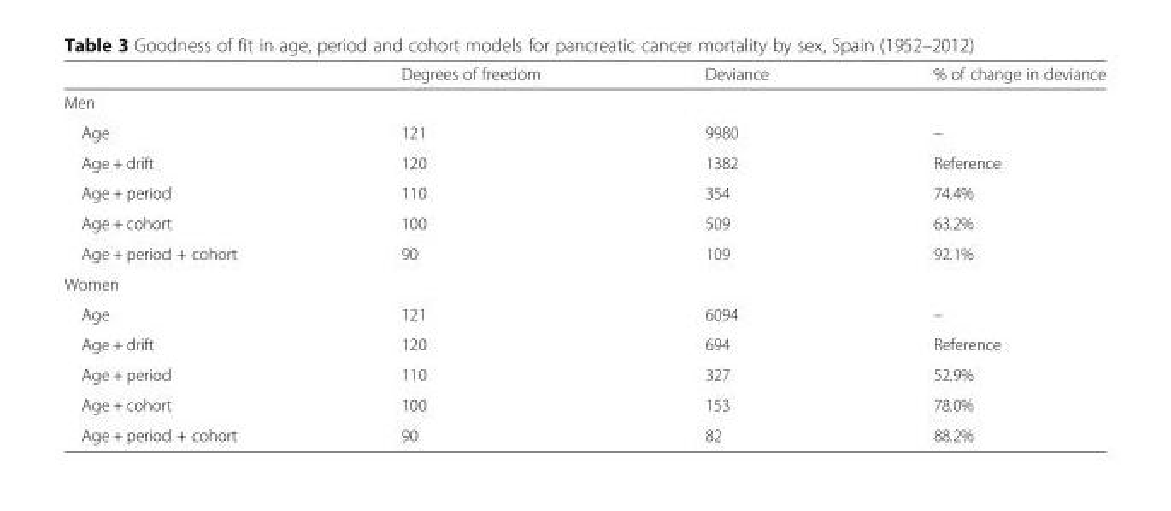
<table><thead><tr><td></td><td>Degrees of freedom</td><td>Deviance</td><td>% of change in deviance</td></tr></thead><tbody><tr><td colspan="4">Men</td></tr><tr><td>Age</td><td>121</td><td>9980</td><td>–</td></tr><tr><td>Age + drift</td><td>120</td><td>1382</td><td>Reference</td></tr><tr><td>Age + period</td><td>110</td><td>354</td><td>74.4%</td></tr><tr><td>Age + cohort</td><td>100</td><td>509</td><td>63.2%</td></tr><tr><td>Age + period + cohort</td><td>90</td><td>109</td><td>92.1%</td></tr><tr><td colspan="4">Women</td></tr><tr><td>Age</td><td>121</td><td>6094</td><td>–</td></tr><tr><td>Age + drift</td><td>120</td><td>694</td><td>Reference</td></tr><tr><td>Age + period</td><td>110</td><td>327</td><td>52.9%</td></tr><tr><td>Age + cohort</td><td>100</td><td>153</td><td>78.0%</td></tr><tr><td>Age + period + cohort</td><td>90</td><td>82</td><td>88.2%</td></tr></tbody></table>